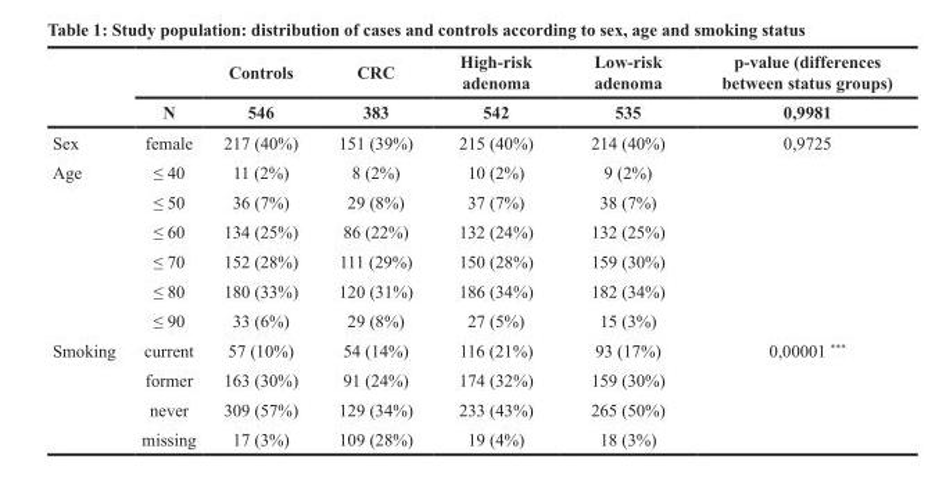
<table><thead><tr><td rowspan="2"></td><td rowspan="2">N</td><td rowspan="2">Controls 546</td><td rowspan="2">CRC 383</td><td rowspan="2">High-risk adenoma 542</td><td rowspan="2">Low-risk adenoma 535</td><td rowspan="2">p-value (differences between status groups) 0,9981</td></tr><tr></tr></thead><tbody><tr><td>Sex</td><td>female</td><td>217 (40%)</td><td>151 (39%)</td><td>215 (40%)</td><td>214 (40%)</td><td>0,9725</td></tr><tr><td rowspan="6">Age</td><td>≤ 40</td><td>11 (2%)</td><td>8 (2%)</td><td>10 (2%)</td><td>9 (2%)</td><td></td></tr><tr><td>≤ 50</td><td>36 (7%)</td><td>29 (8%)</td><td>37 (7%)</td><td>38 (7%)</td><td></td></tr><tr><td>≤ 60</td><td>134 (25%)</td><td>86 (22%)</td><td>132 (24%)</td><td>132 (25%)</td><td></td></tr><tr><td>≤ 70</td><td>152 (28%)</td><td>111 (29%)</td><td>150 (28%)</td><td>159 (30%)</td><td></td></tr><tr><td>≤ 80</td><td>180 (33%)</td><td>120 (31%)</td><td>186 (34%)</td><td>182 (34%)</td><td></td></tr><tr><td>≤ 90</td><td>33 (6%)</td><td>29 (8%)</td><td>27 (5%)</td><td>15 (3%)</td><td></td></tr><tr><td rowspan="4">Smoking</td><td>current</td><td>57 (10%)</td><td>54 (14%)</td><td>116 (21%)</td><td>93 (17%)</td><td>0,00001 ***</td></tr><tr><td>former</td><td>163 (30%)</td><td>91 (24%)</td><td>174 (32%)</td><td>159 (30%)</td><td></td></tr><tr><td>never</td><td>309 (57%)</td><td>129 (34%)</td><td>233 (43%)</td><td>265 (50%)</td><td></td></tr><tr><td>missing</td><td>17 (3%)</td><td>109 (28%)</td><td>19 (4%)</td><td>18 (3%)</td><td></td></tr></tbody></table>